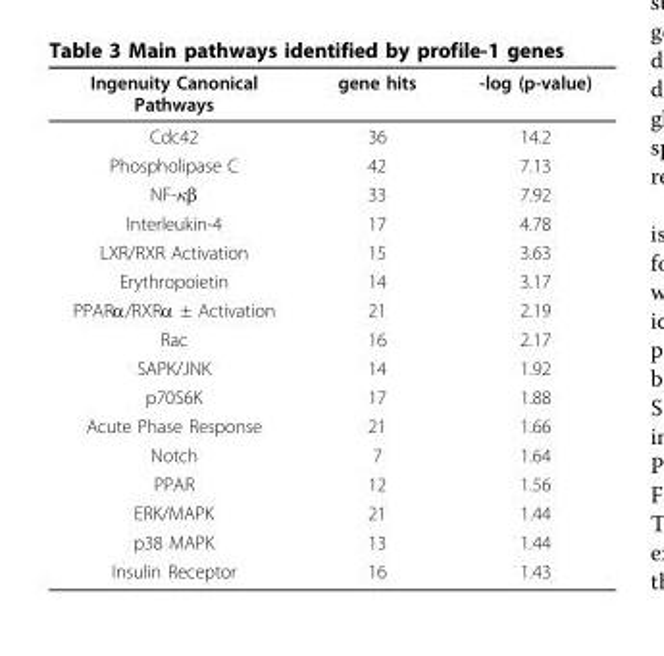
<table><thead><tr><td>Ingenuity Canonical Pathways</td><td>gene hits</td><td>-log (p-value)</td></tr></thead><tbody><tr><td>Cdc42</td><td>36</td><td>14.2</td></tr><tr><td>Phospholipase C</td><td>42</td><td>7.13</td></tr><tr><td>NF-κβ</td><td>33</td><td>7.92</td></tr><tr><td>Interleukin-4</td><td>17</td><td>4.78</td></tr><tr><td>LXR/RXR Activation</td><td>15</td><td>3.63</td></tr><tr><td>Erythropoietin</td><td>14</td><td>3.17</td></tr><tr><td>PPARα/RXRα ± Activation</td><td>21</td><td>2.19</td></tr><tr><td>Rac</td><td>16</td><td>2.17</td></tr><tr><td>SAPK/JNK</td><td>14</td><td>1.92</td></tr><tr><td>p70S6K</td><td>17</td><td>1.88</td></tr><tr><td>Acute Phase Response</td><td>21</td><td>1.66</td></tr><tr><td>Notch</td><td>7</td><td>1.64</td></tr><tr><td>PPAR</td><td>12</td><td>1.56</td></tr><tr><td>ERK/MAPK</td><td>21</td><td>1.44</td></tr><tr><td>p38 MAPK</td><td>13</td><td>1.44</td></tr><tr><td>Insulin Receptor</td><td>16</td><td>1.43</td></tr></tbody></table>